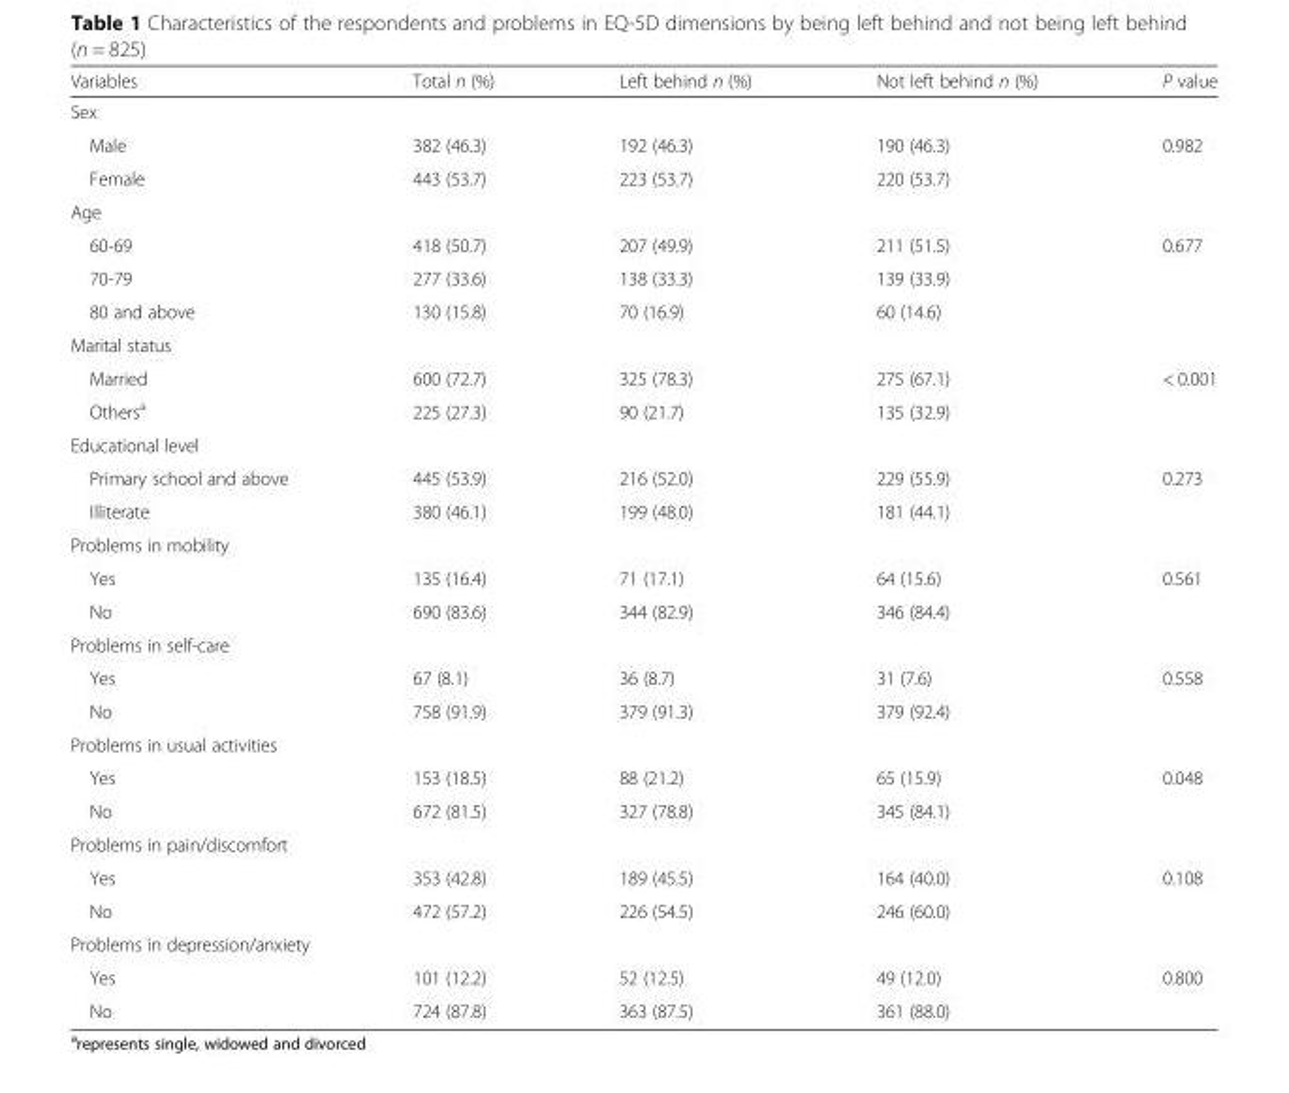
<table><thead><tr><td>Variables</td><td>Total n (%)</td><td>Left behind n (%)</td><td>Not left behind n (%)</td><td>P value</td></tr></thead><tbody><tr><td colspan="5">Sex</td></tr><tr><td>Male</td><td>382 (46.3)</td><td>192 (46.3)</td><td>190 (46.3)</td><td>0.982</td></tr><tr><td>Female</td><td>443 (53.7)</td><td>223 (53.7)</td><td>220 (53.7)</td><td></td></tr><tr><td colspan="5">Age</td></tr><tr><td>60-69</td><td>418 (50.7)</td><td>207 (49.9)</td><td>211 (51.5)</td><td>0.677</td></tr><tr><td>70-79</td><td>277 (33.6)</td><td>138 (33.3)</td><td>139 (33.9)</td><td></td></tr><tr><td>80 and above</td><td>130 (15.8)</td><td>70 (16.9)</td><td>60 (14.6)</td><td></td></tr><tr><td colspan="5">Marital status</td></tr><tr><td>Married</td><td>600 (72.7)</td><td>325 (78.3)</td><td>275 (67.1)</td><td>&lt; 0.001</td></tr><tr><td>Others<sup>a</sup></td><td>225 (27.3)</td><td>90 (21.7)</td><td>135 (32.9)</td><td></td></tr><tr><td colspan="5">Educational level</td></tr><tr><td>Primary school and above</td><td>445 (53.9)</td><td>216 (52.0)</td><td>229 (55.9)</td><td>0.273</td></tr><tr><td>Illiterate</td><td>380 (46.1)</td><td>199 (48.0)</td><td>181 (44.1)</td><td></td></tr><tr><td colspan="5">Problems in mobility</td></tr><tr><td>Yes</td><td>135 (16.4)</td><td>71 (17.1)</td><td>64 (15.6)</td><td>0.561</td></tr><tr><td>No</td><td>690 (83.6)</td><td>344 (82.9)</td><td>346 (84.4)</td><td></td></tr><tr><td colspan="5">Problems in self-care</td></tr><tr><td>Yes</td><td>67 (8.1)</td><td>36 (8.7)</td><td>31 (7.6)</td><td>0.558</td></tr><tr><td>No</td><td>758 (91.9)</td><td>379 (91.3)</td><td>379 (92.4)</td><td></td></tr><tr><td colspan="5">Problems in usual activities</td></tr><tr><td>Yes</td><td>153 (18.5)</td><td>88 (21.2)</td><td>65 (15.9)</td><td>0.048</td></tr><tr><td>No</td><td>672 (81.5)</td><td>327 (78.8)</td><td>345 (84.1)</td><td></td></tr><tr><td colspan="5">Problems in pain/discomfort</td></tr><tr><td>Yes</td><td>353 (42.8)</td><td>189 (45.5)</td><td>164 (40.0)</td><td>0.108</td></tr><tr><td>No</td><td>472 (57.2)</td><td>226 (54.5)</td><td>246 (60.0)</td><td></td></tr><tr><td colspan="5">Problems in depression/anxiety</td></tr><tr><td>Yes</td><td>101 (12.2)</td><td>52 (12.5)</td><td>49 (12.0)</td><td>0.800</td></tr><tr><td>No</td><td>724 (87.8)</td><td>363 (87.5)</td><td>361 (88.0)</td><td></td></tr></tbody></table>